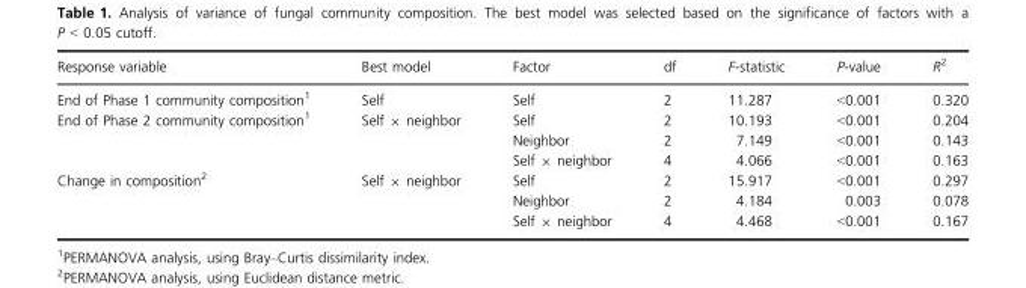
<table><thead><tr><td>Response variable</td><td>Best model</td><td>Factor</td><td>df</td><td>F-statistic</td><td>P-value</td><td>R<sup>2</sup></td></tr></thead><tbody><tr><td>End of Phase 1 community composition1</td><td>Self</td><td>Self</td><td>2</td><td>11.287</td><td>&lt;0.001</td><td>0.320</td></tr><tr><td rowspan="3">End of Phase 2 community composition1</td><td>Self × neighbor</td><td>Self</td><td>2</td><td>10.193</td><td>&lt;0.001</td><td>0.204</td></tr><tr><td></td><td>Neighbor</td><td>2</td><td>7.149</td><td>&lt;0.001</td><td>0.143</td></tr><tr><td></td><td>Self × neighbor</td><td>4</td><td>4.066</td><td>&lt;0.001</td><td>0.163</td></tr><tr><td rowspan="3">Change in composition2</td><td>Self × neighbor</td><td>Self</td><td>2</td><td>15.917</td><td>&lt;0.001</td><td>0.297</td></tr><tr><td></td><td>Neighbor</td><td>2</td><td>4.184</td><td>0.003</td><td>0.078</td></tr><tr><td></td><td>Self × neighbor</td><td>4</td><td>4.468</td><td>&lt;0.001</td><td>0.167</td></tr></tbody></table>